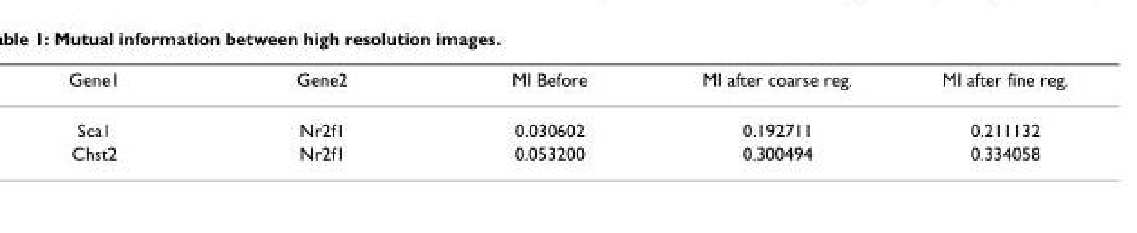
<table><thead><tr><td>Gene1</td><td>Gene2</td><td>MI Before</td><td>MI after coarse reg.</td><td>MI after fine reg.</td></tr></thead><tbody><tr><td>Sca1</td><td>Nr2f1</td><td>0.030602</td><td>0.192711</td><td>0.211132</td></tr><tr><td>Chst2</td><td>Nr2f1</td><td>0.053200</td><td>0.300494</td><td>0.334058</td></tr></tbody></table>